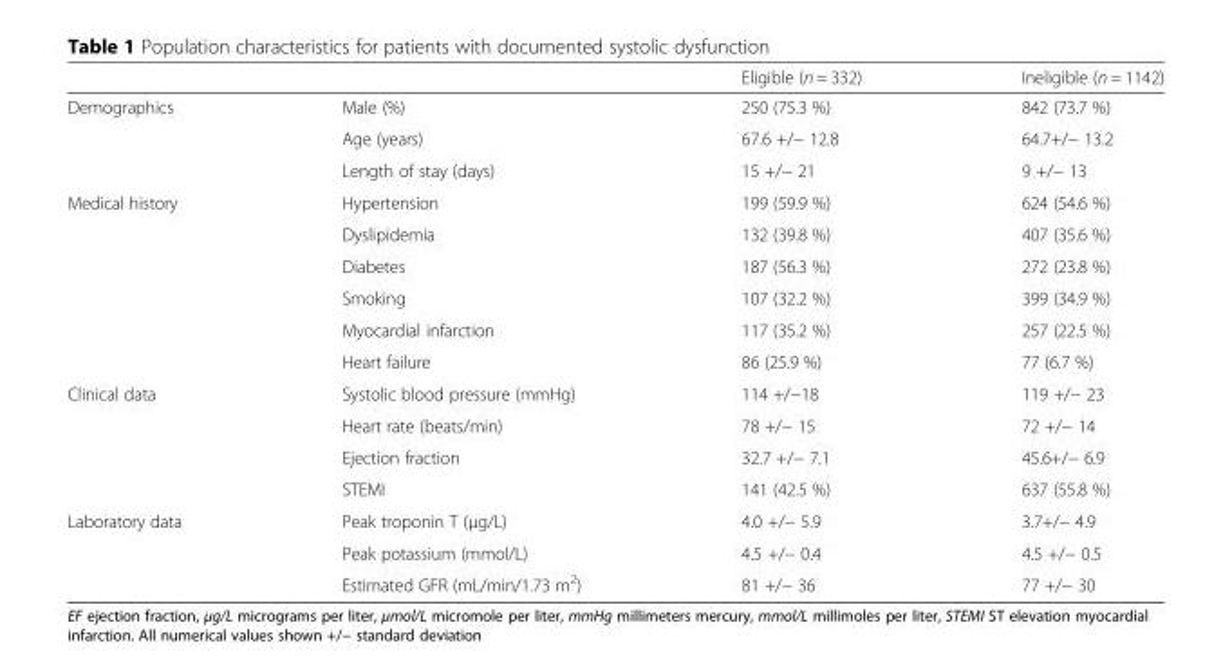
<table><thead><tr><td></td><td></td><td>Eligible (n = 332)</td><td>Ineligible (n = 1142)</td></tr></thead><tbody><tr><td rowspan="3">Demographics</td><td>Male (%)</td><td>250 (75.3 %)</td><td>842 (73.7 %)</td></tr><tr><td>Age (years)</td><td>67.6 +/− 12.8</td><td>64.7+/− 13.2</td></tr><tr><td>Length of stay (days)</td><td>15 +/− 21</td><td>9 +/− 13</td></tr><tr><td rowspan="6">Medical history</td><td>Hypertension</td><td>199 (59.9 %)</td><td>624 (54.6 %)</td></tr><tr><td>Dyslipidemia</td><td>132 (39.8 %)</td><td>407 (35.6 %)</td></tr><tr><td>Diabetes</td><td>187 (56.3 %)</td><td>272 (23.8 %)</td></tr><tr><td>Smoking</td><td>107 (32.2 %)</td><td>399 (34.9 %)</td></tr><tr><td>Myocardial infarction</td><td>117 (35.2 %)</td><td>257 (22.5 %)</td></tr><tr><td>Heart failure</td><td>86 (25.9 %)</td><td>77 (6.7 %)</td></tr><tr><td rowspan="4">Clinical data</td><td>Systolic blood pressure (mmHg)</td><td>114 +/−18</td><td>119 +/− 23</td></tr><tr><td>Heart rate (beats/min)</td><td>78 +/− 15</td><td>72 +/− 14</td></tr><tr><td>Ejection fraction</td><td>32.7 +/− 7.1</td><td>45.6+/− 6.9</td></tr><tr><td>STEMI</td><td>141 (42.5 %)</td><td>637 (55.8 %)</td></tr><tr><td rowspan="3">Laboratory data</td><td>Peak troponin T (μg/L)</td><td>4.0 +/− 5.9</td><td>3.7+/− 4.9</td></tr><tr><td>Peak potassium (mmol/L)</td><td>4.5 +/− 0.4</td><td>4.5 +/− 0.5</td></tr><tr><td>Estimated GFR (mL/min/1.73 m<sup>2</sup>)</td><td>81 +/− 36</td><td>77 +/− 30</td></tr></tbody></table>